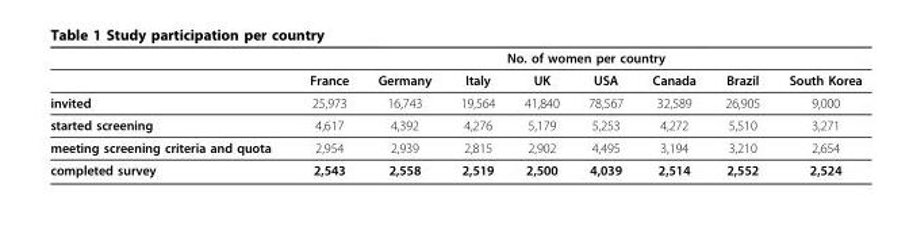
<table><thead><tr><td rowspan="2"></td><td colspan="8">No. of women per country</td></tr><tr><td>France</td><td>Germany</td><td>Italy</td><td>UK</td><td>USA</td><td>Canada</td><td>Brazil</td><td>South Korea</td></tr></thead><tbody><tr><td>invited</td><td>25,973</td><td>16,743</td><td>19,564</td><td>41,840</td><td>78,567</td><td>32,589</td><td>26,905</td><td>9,000</td></tr><tr><td>started screening</td><td>4,617</td><td>4,392</td><td>4,276</td><td>5,179</td><td>5,253</td><td>4,272</td><td>5,510</td><td>3,271</td></tr><tr><td>meeting screening criteria and quota</td><td>2,954</td><td>2,939</td><td>2,815</td><td>2,902</td><td>4,495</td><td>3,194</td><td>3,210</td><td>2,654</td></tr><tr><td>completed survey</td><td>2,543</td><td>2,558</td><td>2,519</td><td>2,500</td><td>4,039</td><td>2,514</td><td>2,552</td><td>2,524</td></tr></tbody></table>